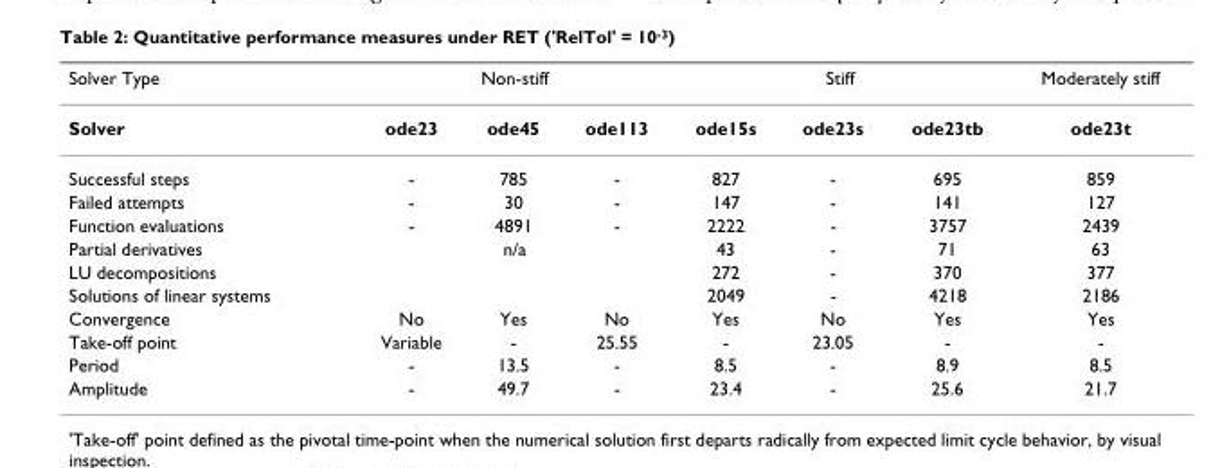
<table><thead><tr><td rowspan="2">Solver Type Solver</td><td colspan="3">Non-stiff</td><td colspan="3">Stiff</td><td rowspan="2">Moderately stiff ode23t</td></tr><tr><td>ode23</td><td>ode45</td><td>ode113</td><td>ode15s</td><td>ode23s</td><td>ode23tb</td></tr></thead><tbody><tr><td>Successful steps</td><td>-</td><td>785</td><td>-</td><td>827</td><td>-</td><td>695</td><td>859</td></tr><tr><td>Failed attempts</td><td>-</td><td>30</td><td>-</td><td>147</td><td>-</td><td>141</td><td>127</td></tr><tr><td>Function evaluations</td><td>-</td><td>4891</td><td>-</td><td>2222</td><td>-</td><td>3757</td><td>2439</td></tr><tr><td>Partial derivatives</td><td colspan="3">n/a</td><td>43</td><td>-</td><td>71</td><td>63</td></tr><tr><td>LU decompositions</td><td></td><td></td><td></td><td>272</td><td>-</td><td>370</td><td>377</td></tr><tr><td>Solutions of linear systems</td><td></td><td></td><td></td><td>2049</td><td>-</td><td>4218</td><td>2186</td></tr><tr><td>Convergence</td><td>No</td><td>Yes</td><td>No</td><td>Yes</td><td>No</td><td>Yes</td><td>Yes</td></tr><tr><td>Take-off point</td><td>Variable</td><td>-</td><td>25.55</td><td>-</td><td>23.05</td><td>-</td><td>-</td></tr><tr><td>Period</td><td>-</td><td>13.5</td><td>-</td><td>8.5</td><td>-</td><td>8.9</td><td>8.5</td></tr><tr><td>Amplitude</td><td>-</td><td>49.7</td><td>-</td><td>23.4</td><td>-</td><td>25.6</td><td>21.7</td></tr></tbody></table>